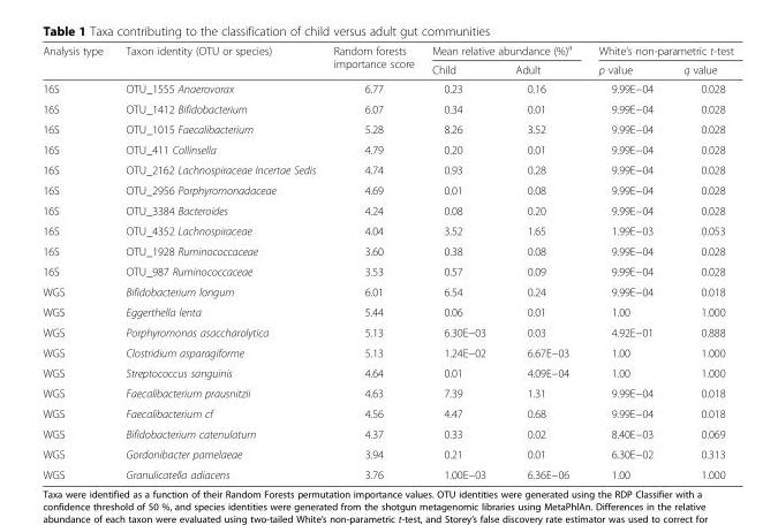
<table><thead><tr><td rowspan="2">Analysis type</td><td rowspan="2">Taxon identity (OTU or species)</td><td rowspan="2">Random forests importance score</td><td colspan="2">Mean relative abundance (%)<sup>a</sup></td><td colspan="2">White’s non-parametric t-test</td></tr><tr><td>Child</td><td>Adult</td><td>p value</td><td>q value</td></tr></thead><tbody><tr><td>16S</td><td>OTU_1555 Anaerovorax</td><td>6.77</td><td>0.23</td><td>0.16</td><td>9.99E−04</td><td>0.028</td></tr><tr><td>16S</td><td>OTU_1412 Bifidobacterium</td><td>6.07</td><td>0.34</td><td>0.01</td><td>9.99E−04</td><td>0.028</td></tr><tr><td>16S</td><td>OTU_1015 Faecalibacterium</td><td>5.28</td><td>8.26</td><td>3.52</td><td>9.99E−04</td><td>0.028</td></tr><tr><td>16S</td><td>OTU_411 Collinsella</td><td>4.79</td><td>0.20</td><td>0.01</td><td>9.99E−04</td><td>0.028</td></tr><tr><td>16S</td><td>OTU_2162 Lachnospiraceae Incertae Sedis</td><td>4.74</td><td>0.93</td><td>0.28</td><td>9.99E−04</td><td>0.028</td></tr><tr><td>16S</td><td>OTU_2956 Porphyromonadaceae</td><td>4.69</td><td>0.01</td><td>0.08</td><td>9.99E−04</td><td>0.028</td></tr><tr><td>16S</td><td>OTU_3384 Bacteroides</td><td>4.24</td><td>0.08</td><td>0.20</td><td>9.99E−04</td><td>0.028</td></tr><tr><td>16S</td><td>OTU_4352 Lachnospiraceae</td><td>4.04</td><td>3.52</td><td>1.65</td><td>1.99E−03</td><td>0.053</td></tr><tr><td>16S</td><td>OTU_1928 Ruminococcaceae</td><td>3.60</td><td>0.38</td><td>0.08</td><td>9.99E−04</td><td>0.028</td></tr><tr><td>16S</td><td>OTU_987 Ruminococcaceae</td><td>3.53</td><td>0.57</td><td>0.09</td><td>9.99E−04</td><td>0.028</td></tr><tr><td>WGS</td><td>Bifidobacterium longum</td><td>6.01</td><td>6.54</td><td>0.24</td><td>9.99E−04</td><td>0.018</td></tr><tr><td>WGS</td><td>Eggerthella lenta</td><td>5.44</td><td>0.06</td><td>0.01</td><td>1.00</td><td>1.000</td></tr><tr><td>WGS</td><td>Porphyromonas asaccharolytica</td><td>5.13</td><td>6.30E−03</td><td>0.03</td><td>4.92E−01</td><td>0.888</td></tr><tr><td>WGS</td><td>Clostridium asparagiforme</td><td>5.13</td><td>1.24E−02</td><td>6.67E−03</td><td>1.00</td><td>1.000</td></tr><tr><td>WGS</td><td>Streptococcus sanguinis</td><td>4.64</td><td>0.01</td><td>4.09E−04</td><td>1.00</td><td>1.000</td></tr><tr><td>WGS</td><td>Faecalibacterium prausnitzii</td><td>4.63</td><td>7.39</td><td>1.31</td><td>9.99E−04</td><td>0.018</td></tr><tr><td>WGS</td><td>Faecalibacterium cf</td><td>4.56</td><td>4.47</td><td>0.68</td><td>9.99E−04</td><td>0.018</td></tr><tr><td>WGS</td><td>Bifidobacterium catenulatum</td><td>4.37</td><td>0.33</td><td>0.02</td><td>8.40E−03</td><td>0.069</td></tr><tr><td>WGS</td><td>Gordonibacter pamelaeae</td><td>3.94</td><td>0.21</td><td>0.01</td><td>6.30E−02</td><td>0.313</td></tr><tr><td>WGS</td><td>Granulicatella adiacens</td><td>3.76</td><td>1.00E−03</td><td>6.36E−06</td><td>1.00</td><td>1.000</td></tr></tbody></table>